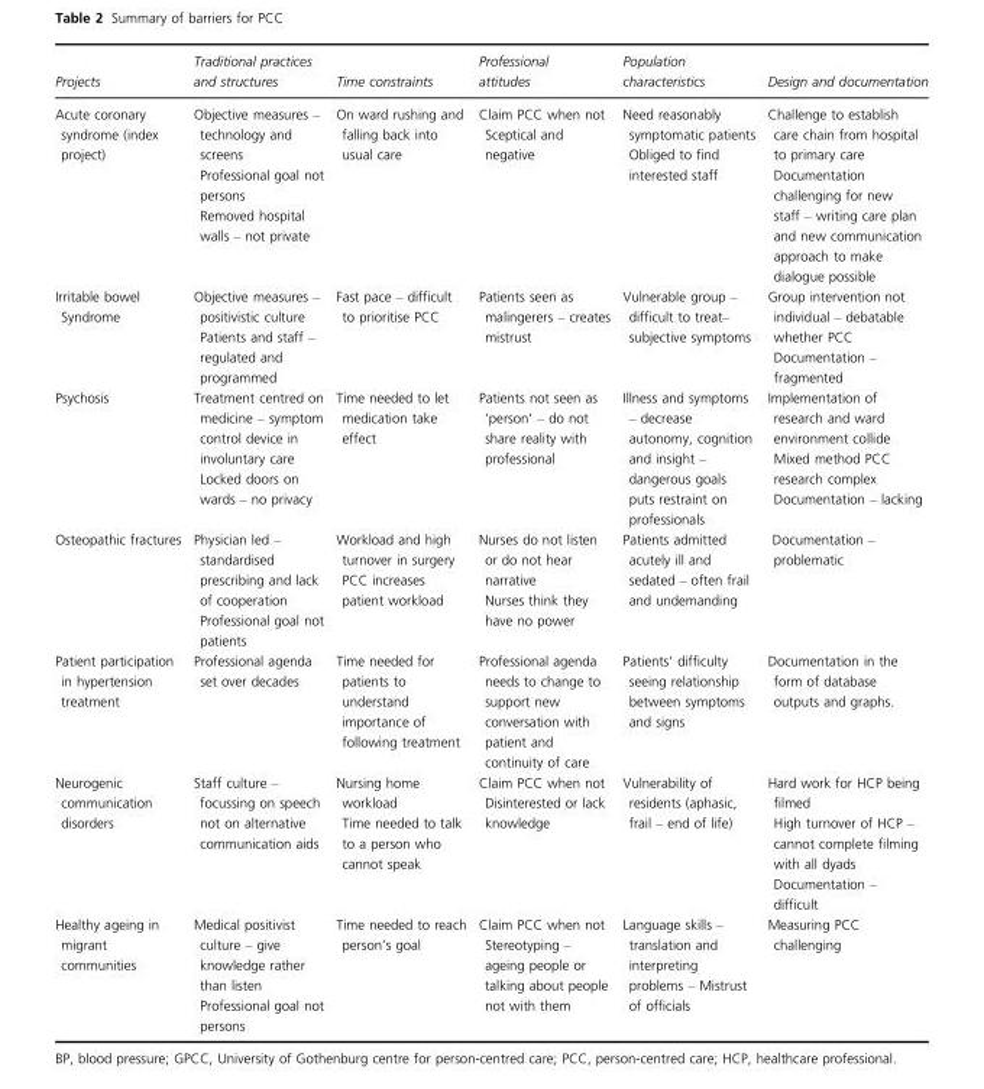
<table><thead><tr><td>Projects</td><td>Traditional practices and structures</td><td>Time constraints</td><td>Professional attitudes</td><td>Population characteristics</td><td>Design and documentation</td></tr></thead><tbody><tr><td>Acute coronary syndrome (index project)</td><td>Objective measures – technology and screens Professional goal not persons Removed hospital walls – not private</td><td>On ward rushing and falling back into usual care</td><td>Claim PCC when not Sceptical and negative</td><td>Need reasonably symptomatic patients Obliged to find interested staff</td><td>Challenge to establish care chain from hospital to primary care Documentation challenging for new staff – writing care plan and new communication approach to make dialogue possible</td></tr><tr><td>Irritable bowel Syndrome</td><td>Objective measures – positivistic culture Patients and staff – regulated and programmed</td><td>Fast pace – difficult to prioritise PCC</td><td>Patients seen as malingerers – creates mistrust</td><td>Vulnerable group – difficult to treat– subjective symptoms</td><td>Group intervention not individual – debatable whether PCC Documentation – fragmented</td></tr><tr><td>Psychosis</td><td>Treatment centred on medicine – symptom control device in involuntary care Locked doors on wards – no privacy</td><td>Time needed to let medication take effect</td><td>Patients not seen as ‘person’ – do not share reality with professional</td><td>Illness and symptoms – decrease autonomy, cognition and insight – dangerous goals puts restraint on professionals</td><td>Implementation of research and ward environment collide Mixed method PCC research complex Documentation – lacking</td></tr><tr><td>Osteopathic fractures</td><td>Physician led – standardised prescribing and lack of cooperation Professional goal not patients</td><td>Workload and high turnover in surgery PCC increases patient workload</td><td>Nurses do not listen or do not hear narrative Nurses think they have no power</td><td>Patients admitted acutely ill and sedated – often frail and undemanding</td><td>Documentation – problematic</td></tr><tr><td>Patient participation in hypertension treatment</td><td>Professional agenda set over decades</td><td>Time needed for patients to understand importance of following treatment</td><td>Professional agenda needs to change to support new conversation with patient and continuity of care</td><td>Patients’ difficulty seeing relationship between symptoms and signs</td><td>Documentation in the form of database outputs and graphs.</td></tr><tr><td>Neurogenic communication disorders</td><td>Staff culture – focussing on speech not on alternative communication aids</td><td>Nursing home workload Time needed to talk to a person who cannot speak</td><td>Claim PCC when not Disinterested or lack knowledge</td><td>Vulnerability of residents (aphasic, frail – end of life)</td><td>Hard work for HCP being filmed High turnover of HCP – cannot complete filming with all dyads Documentation – difficult</td></tr><tr><td>Healthy ageing in migrant communities</td><td>Medical positivist culture – give knowledge rather than listen Professional goal not persons</td><td>Time needed to reach person’s goal</td><td>Claim PCC when not Stereotyping – ageing people or talking about people not with them</td><td>Language skills – translation and interpreting problems – Mistrust of officials</td><td>Measuring PCC challenging</td></tr></tbody></table>